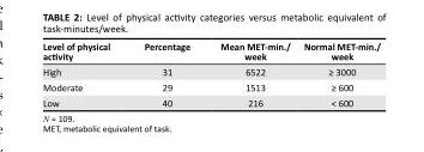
<table><thead><tr><td>Level of physical activity</td><td>Percentage</td><td>Mean MET-min./ week</td><td>Normal MET-min./ week</td></tr></thead><tbody><tr><td>High</td><td>31</td><td>6522</td><td>≥ 3000</td></tr><tr><td>Moderate</td><td>29</td><td>1513</td><td>≥ 600</td></tr><tr><td>Low</td><td>40</td><td>216</td><td>&lt; 600</td></tr></tbody></table>